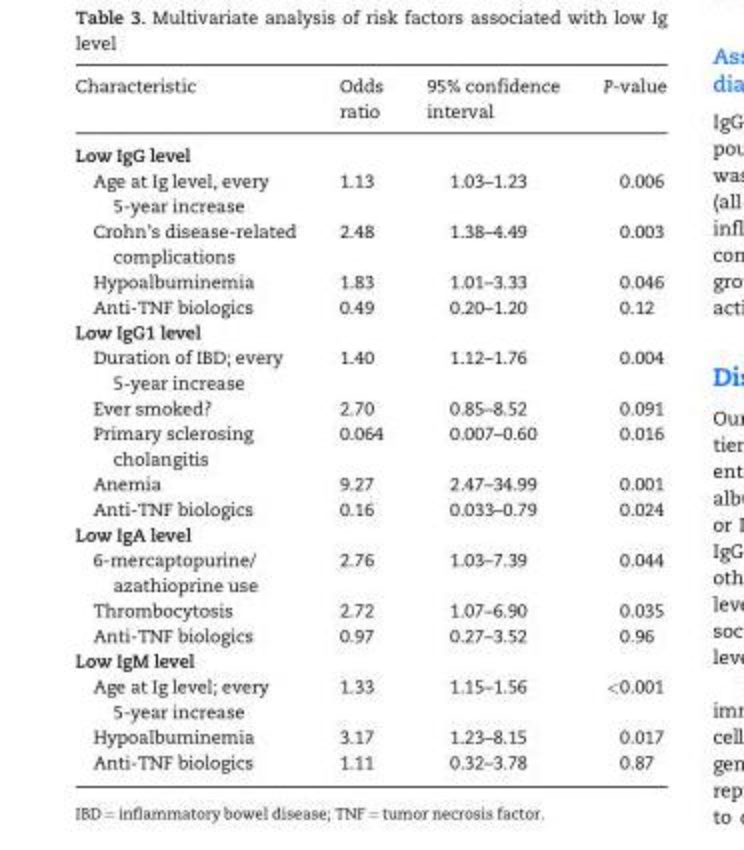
<table><thead><tr><td>Characteristic</td><td>Odds ratio</td><td>95% confidence interval</td><td>P-value</td></tr></thead><tbody><tr><td colspan="4">Low IgG level</td></tr><tr><td>Age at Ig level, every 5-year increase</td><td>1.13</td><td>1.03–1.23</td><td>0.006</td></tr><tr><td>Crohn’s disease-related complications</td><td>2.48</td><td>1.38–4.49</td><td>0.003</td></tr><tr><td>Hypoalbuminemia</td><td>1.83</td><td>1.01–3.33</td><td>0.046</td></tr><tr><td>Anti-TNF biologics</td><td>0.49</td><td>0.20–1.20</td><td>0.12</td></tr><tr><td colspan="4">Low IgG1 level</td></tr><tr><td>Duration of IBD; every 5-year increase</td><td>1.40</td><td>1.12–1.76</td><td>0.004</td></tr><tr><td>Ever smoked?</td><td>2.70</td><td>0.85–8.52</td><td>0.091</td></tr><tr><td>Primary sclerosing cholangitis</td><td>0.064</td><td>0.007–0.60</td><td>0.016</td></tr><tr><td>Anemia</td><td>9.27</td><td>2.47–34.99</td><td>0.001</td></tr><tr><td>Anti-TNF biologics</td><td>0.16</td><td>0.033–0.79</td><td>0.024</td></tr><tr><td colspan="4">Low IgA level</td></tr><tr><td>6-mercaptopurine/ azathioprine use</td><td>2.76</td><td>1.03–7.39</td><td>0.044</td></tr><tr><td>Thrombocytosis</td><td>2.72</td><td>1.07–6.90</td><td>0.035</td></tr><tr><td>Anti-TNF biologics</td><td>0.97</td><td>0.27–3.52</td><td>0.96</td></tr><tr><td colspan="4">Low IgM level</td></tr><tr><td>Age at Ig level; every 5-year increase</td><td>1.33</td><td>1.15–1.56</td><td>&lt;0.001</td></tr><tr><td>Hypoalbuminemia</td><td>3.17</td><td>1.23–8.15</td><td>0.017</td></tr><tr><td>Anti-TNF biologics</td><td>1.11</td><td>0.32–3.78</td><td>0.87</td></tr></tbody></table>